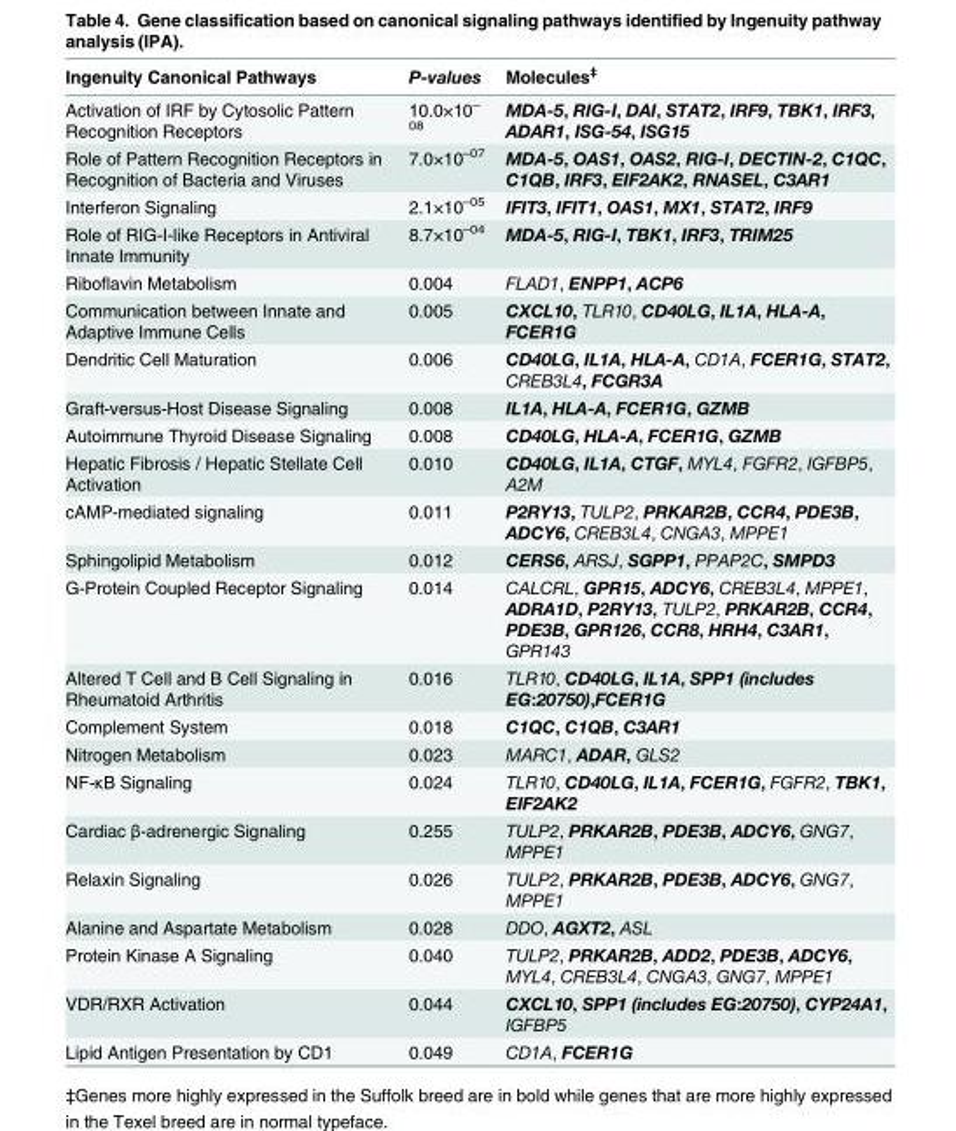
<table><thead><tr><td>Ingenuity Canonical Pathways</td><td>P-values</td><td>Molecules<sup>‡</sup></td></tr></thead><tbody><tr><td>Activation of IRF by Cytosolic Pattern Recognition Receptors</td><td>10.0×10<sup>– 08</sup></td><td>MDA-5, RIG-I, DAI, STAT2, IRF9, TBK1, IRF3, ADAR1, ISG-54, ISG15</td></tr><tr><td>Role of Pattern Recognition Receptors in Recognition of Bacteria and Viruses</td><td>7.0×10<sup>–07</sup></td><td>MDA-5, OAS1, OAS2, RIG-I, DECTIN-2, C1QC, C1QB, IRF3, EIF2AK2, RNASEL, C3AR1</td></tr><tr><td>Interferon Signaling</td><td>2.1×10<sup>–05</sup></td><td>IFIT3, IFIT1, OAS1, MX1, STAT2, IRF9</td></tr><tr><td>Role of RIG-I-like Receptors in Antiviral Innate Immunity</td><td>8.7×10<sup>–04</sup></td><td>MDA-5, RIG-I, TBK1, IRF3, TRIM25</td></tr><tr><td>Riboflavin Metabolism</td><td>0.004</td><td>FLAD1, ENPP1, ACP6</td></tr><tr><td>Communication between Innate and Adaptive Immune Cells</td><td>0.005</td><td>CXCL10, TLR10, CD40LG, IL1A, HLA-A, FCER1G</td></tr><tr><td>Dendritic Cell Maturation</td><td>0.006</td><td>CD40LG, IL1A, HLA-A, CD1A, FCER1G, STAT2, CREB3L4, FCGR3A</td></tr><tr><td>Graft-versus-Host Disease Signaling</td><td>0.008</td><td>IL1A, HLA-A, FCER1G, GZMB</td></tr><tr><td>Autoimmune Thyroid Disease Signaling</td><td>0.008</td><td>CD40LG, HLA-A, FCER1G, GZMB</td></tr><tr><td>Hepatic Fibrosis / Hepatic Stellate Cell Activation</td><td>0.010</td><td>CD40LG, IL1A, CTGF, MYL4, FGFR2, IGFBP5, A2M</td></tr><tr><td>cAMP-mediated signaling</td><td>0.011</td><td>P2RY13, TULP2, PRKAR2B, CCR4, PDE3B, ADCY6, CREB3L4, CNGA3, MPPE1</td></tr><tr><td>Sphingolipid Metabolism</td><td>0.012</td><td>CERS6, ARSJ, SGPP1, PPAP2C, SMPD3</td></tr><tr><td>G-Protein Coupled Receptor Signaling</td><td>0.014</td><td>CALCRL, GPR15, ADCY6, CREB3L4, MPPE1, ADRA1D, P2RY13, TULP2, PRKAR2B, CCR4, PDE3B, GPR126, CCR8, HRH4, C3AR1, GPR143</td></tr><tr><td>Altered T Cell and B Cell Signaling in Rheumatoid Arthritis</td><td>0.016</td><td>TLR10, CD40LG, IL1A, SPP1 (includes EG:20750),FCER1G</td></tr><tr><td>Complement System</td><td>0.018</td><td>C1QC, C1QB, C3AR1</td></tr><tr><td>Nitrogen Metabolism</td><td>0.023</td><td>MARC1, ADAR, GLS2</td></tr><tr><td>NF-κB Signaling</td><td>0.024</td><td>TLR10, CD40LG, IL1A, FCER1G, FGFR2, TBK1, EIF2AK2</td></tr><tr><td>Cardiac β-adrenergic Signaling</td><td>0.255</td><td>TULP2, PRKAR2B, PDE3B, ADCY6, GNG7, MPPE1</td></tr><tr><td>Relaxin Signaling</td><td>0.026</td><td>TULP2, PRKAR2B, PDE3B, ADCY6, GNG7, MPPE1</td></tr><tr><td>Alanine and Aspartate Metabolism</td><td>0.028</td><td>DDO, AGXT2, ASL</td></tr><tr><td>Protein Kinase A Signaling</td><td>0.040</td><td>TULP2, PRKAR2B, ADD2, PDE3B, ADCY6, MYL4, CREB3L4, CNGA3, GNG7, MPPE1</td></tr><tr><td>VDR/RXR Activation</td><td>0.044</td><td>CXCL10, SPP1 (includes EG:20750), CYP24A1, IGFBP5</td></tr><tr><td>Lipid Antigen Presentation by CD1</td><td>0.049</td><td>CD1A, FCER1G</td></tr></tbody></table>